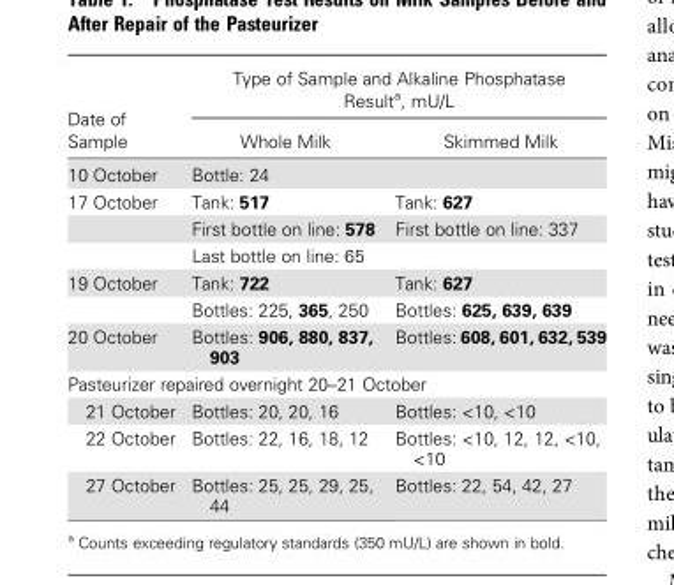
<table><thead><tr><td rowspan="2">Date of Sample</td><td colspan="2">Type of Sample and Alkaline Phosphatase Result<sup>a</sup>, mU/L</td></tr><tr><td>Whole Milk</td><td>Skimmed Milk</td></tr></thead><tbody><tr><td>10 October</td><td>Bottle: 24</td><td></td></tr><tr><td rowspan="3">17 October</td><td>Tank: 517</td><td>Tank: 627</td></tr><tr><td>First bottle on line: 578</td><td>First bottle on line: 337</td></tr><tr><td>Last bottle on line: 65</td><td></td></tr><tr><td rowspan="2">19 October</td><td>Tank: 722</td><td>Tank: 627</td></tr><tr><td>Bottles: 225, 365, 250</td><td>Bottles: 625, 639, 639</td></tr><tr><td>20 October</td><td>Bottles: 906, 880, 837, 903</td><td>Bottles: 608, 601, 632, 539</td></tr><tr><td colspan="3">Pasteurizer repaired overnight 20–21 October</td></tr><tr><td>21 October</td><td>Bottles: 20, 20, 16</td><td>Bottles: &lt;10, &lt;10</td></tr><tr><td>22 October</td><td>Bottles: 22, 16, 18, 12</td><td>Bottles: &lt;10, 12, 12, &lt;10, &lt;10</td></tr><tr><td>27 October</td><td>Bottles: 25, 25, 29, 25, 44</td><td>Bottles: 22, 54, 42, 27</td></tr></tbody></table>